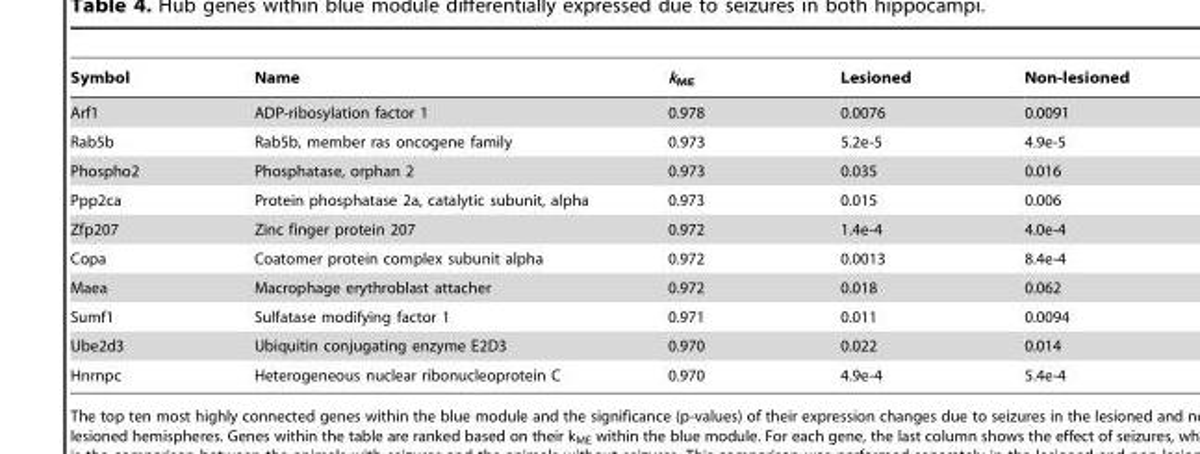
<table><thead><tr><td>Symbol</td><td>Name</td><td>k<sub>ME</sub></td><td>Lesioned</td><td>Non-lesioned</td></tr></thead><tbody><tr><td>Arf1</td><td>ADP-ribosylation factor 1</td><td>0.978</td><td>0.0076</td><td>0.0091</td></tr><tr><td>Rab5b</td><td>Rab5b, member ras oncogene family</td><td>0.973</td><td>5.2e-5</td><td>4.9e-5</td></tr><tr><td>Phospho2</td><td>Phosphatase, orphan 2</td><td>0.973</td><td>0.035</td><td>0.016</td></tr><tr><td>Ppp2ca</td><td>Protein phosphatase 2a, catalytic subunit, alpha</td><td>0.973</td><td>0.015</td><td>0.006</td></tr><tr><td>Zfp207</td><td>Zinc finger protein 207</td><td>0.972</td><td>1.4e-4</td><td>4.0e-4</td></tr><tr><td>Copa</td><td>Coatomer protein complex subunit alpha</td><td>0.972</td><td>0.0013</td><td>8.4e-4</td></tr><tr><td>Maea</td><td>Macrophage erythroblast attacher</td><td>0.972</td><td>0.018</td><td>0.062</td></tr><tr><td>Sumf1</td><td>Sulfatase modifying factor 1</td><td>0.971</td><td>0.011</td><td>0.0094</td></tr><tr><td>Ube2d3</td><td>Ubiquitin conjugating enzyme E2D3</td><td>0.970</td><td>0.022</td><td>0.014</td></tr><tr><td>Hnrnpc</td><td>Heterogeneous nuclear ribonucleoprotein C</td><td>0.970</td><td>4.9e-4</td><td>5.4e-4</td></tr></tbody></table>